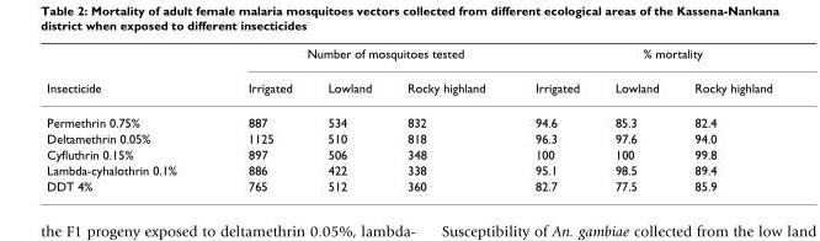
<table><thead><tr><td rowspan="2">Insecticide</td><td colspan="3">Number of mosquitoes tested</td><td colspan="3">% mortality</td></tr><tr><td>Irrigated</td><td>Lowland</td><td>Rocky highland</td><td>Irrigated</td><td>Lowland</td><td>Rocky highland</td></tr></thead><tbody><tr><td>Permethrin 0.75%</td><td>887</td><td>534</td><td>832</td><td>94.6</td><td>85.3</td><td>82.4</td></tr><tr><td>Deltamethrin 0.05%</td><td>1125</td><td>510</td><td>818</td><td>96.3</td><td>97.6</td><td>94.0</td></tr><tr><td>Cyfluthrin 0.15%</td><td>897</td><td>506</td><td>348</td><td>100</td><td>100</td><td>99.8</td></tr><tr><td>Lambda-cyhalothrin 0.1%</td><td>886</td><td>422</td><td>338</td><td>95.1</td><td>98.5</td><td>89.4</td></tr><tr><td>DDT 4%</td><td>765</td><td>512</td><td>360</td><td>82.7</td><td>77.5</td><td>85.9</td></tr></tbody></table>